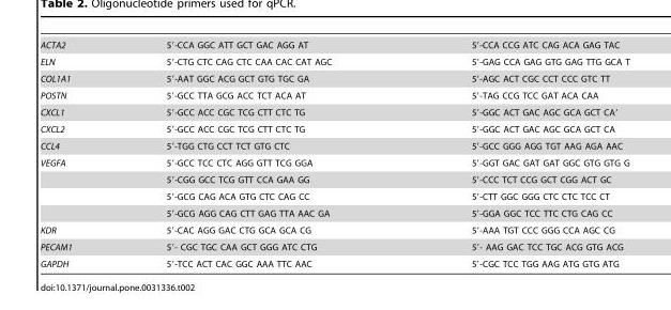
<table><tbody><tr><td>ACTA2</td><td>5′-CCA GGC ATT GCT GAC AGG AT</td><td>5′-CCA CCG ATC CAG ACA GAG TAC</td></tr><tr><td>ELN</td><td>5′-CTG CTC CAG CTC CAA CAC CAT AGC</td><td>5′-GAG CCA GAG GTG GAG TTG GCA T</td></tr><tr><td>COL1A1</td><td>5′-AAT GGC ACG GCT GTG TGC GA</td><td>5′-AGC ACT CGC CCT CCC GTC TT</td></tr><tr><td>POSTN</td><td>5′-GCC TTA GCG ACC TCT ACA AT</td><td>5′-TAG CCG TCC GAT ACA CAA</td></tr><tr><td>CXCL1</td><td>5′-GCC ACC CGC TCG CTT CTC TG</td><td>5′-GGC ACT GAC AGC GCA GCT CA′</td></tr><tr><td>CXCL2</td><td>5′-GCC ACC CGC TCG CTT CTC TG</td><td>5′-GGC ACT GAC AGC GCA GCT CA</td></tr><tr><td>CCL4</td><td>5′-TGG CTG CCT TCT GTG CTC</td><td>5′-GCC GGG AGG TGT AAG AGA AAC</td></tr><tr><td rowspan="4">VEGFA</td><td>5′-GCC TCC CTC AGG GTT TCG GGA</td><td>5′-GGT GAC GAT GAT GGC GTG GTG G</td></tr><tr><td>5′-CGG GCC TCG GTT CCA GAA GG</td><td>5′-CCC TCT CCG GCT CGG ACT GC</td></tr><tr><td>5′-GCG CAG ACA GTG CTC CAG CC</td><td>5′-CTT GGC GGG CTC CTC TCC CT</td></tr><tr><td>5′-GCG AGG CAG CTT GAG TTA AAC GA</td><td>5′-GGA GGC TCC TTC CTG CAG CC</td></tr><tr><td>KDR</td><td>5′-CAC AGG GAC CTG GCA GCA CG</td><td>5′-AAA TGT CCC GGG CCA AGC CG</td></tr><tr><td>PECAM1</td><td>5′- CGC TGC CAA GCT GGG ATC CTG</td><td>5′- AAG GAC TCC TGC ACG GTG ACG</td></tr><tr><td>GAPDH</td><td>5′-TCC ACT CAC GGC AAA TTC AAC</td><td>5′-CGC TCC TGG AAG ATG GTG ATG</td></tr></tbody></table>